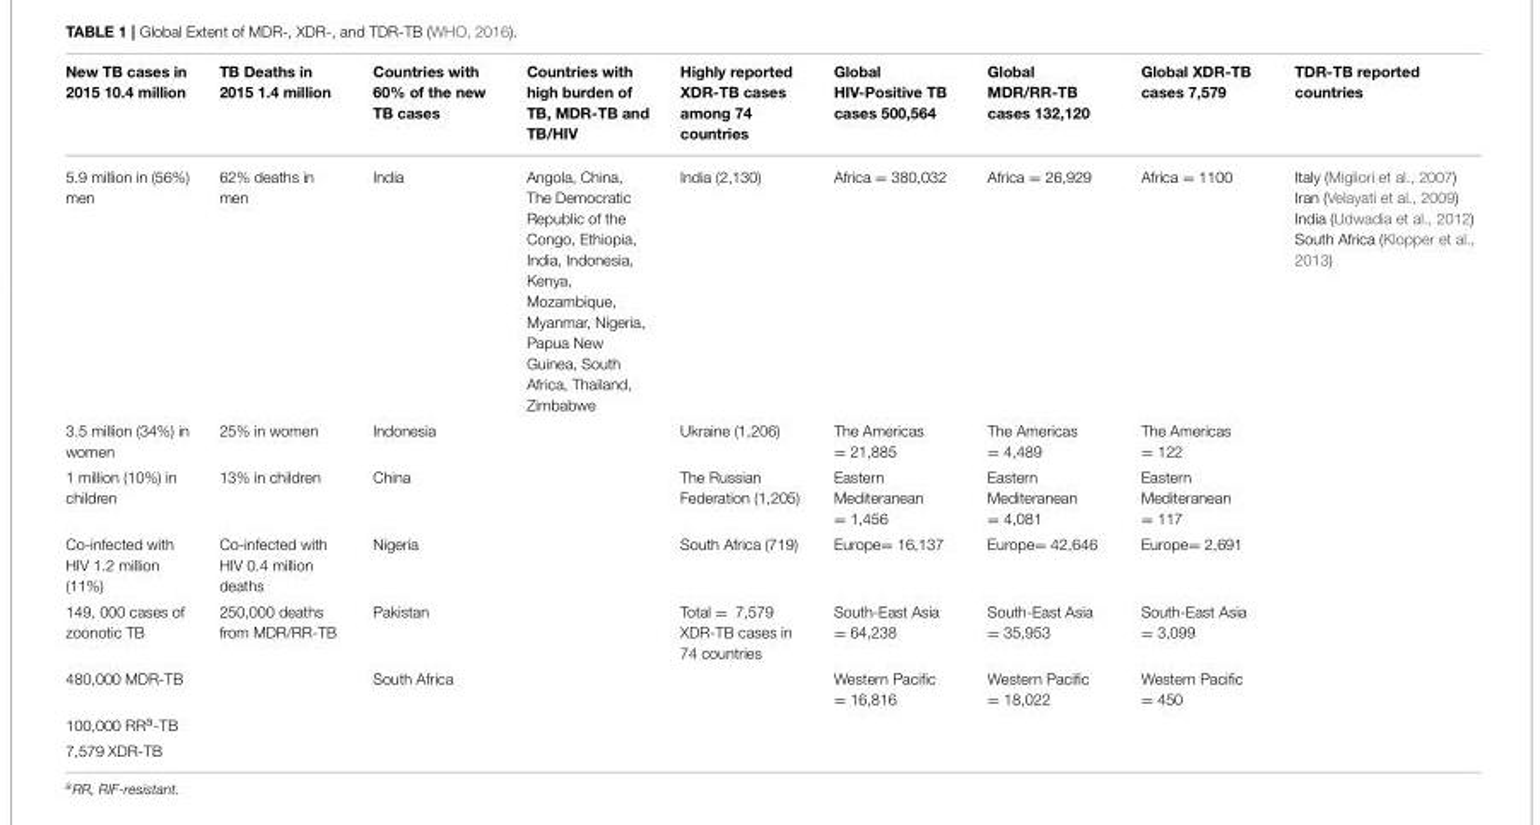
<table><thead><tr><td>New TB cases in 2015 10.4 million</td><td>TB Deaths in 2015 1.4 million</td><td>Countries with 60% of the new TB cases</td><td>Countries with high burden of TB, MDR-TB and TB/HIV</td><td>Highly reported XDR-TB cases among 74 countries</td><td>Global HIV-Positive TB cases 500,564</td><td>Global MDR/RR-TB cases 132,120</td><td>Global XDR-TB cases 7,579</td><td>TDR-TB reported countries</td></tr></thead><tbody><tr><td>5.9 million in (56%) men</td><td>62% deaths in men</td><td>India</td><td>Angola, China, The Democratic Republic of the Congo, Ethiopia, India, Indonesia, Kenya, Mozambique, Myanmar, Nigeria, Papua New Guinea, South Africa, Thailand, Zimbabwe</td><td>India (2,130)</td><td>Africa = 380,032</td><td>Africa = 26,929</td><td>Africa = 1100</td><td>Italy (Migliori et al., 2007) Iran (Velayati et al., 2009) India (Udwadia et al., 2012) South Africa (Klopper et al., 2013)</td></tr><tr><td>3.5 million (34%) in women</td><td>25% in women</td><td>Indonesia</td><td></td><td>Ukraine (1,206)</td><td>The Americas = 21,885</td><td>The Americas = 4,489</td><td>The Americas = 122</td><td></td></tr><tr><td>1 million (10%) in children</td><td>13% in children</td><td>China</td><td></td><td>The Russian Federation (1,205)</td><td>Eastern Mediteranean = 1,456</td><td>Eastern Mediteranean = 4,081</td><td>Eastern Mediteranean = 117</td><td></td></tr><tr><td>Co-infected with HIV 1.2 million (11%)</td><td>Co-infected with HIV 0.4 million deaths</td><td>Nigeria</td><td></td><td>South Africa (719)</td><td>Europe= 16,137</td><td>Europe= 42,646</td><td>Europe= 2,691</td><td></td></tr><tr><td>149, 000 cases of zoonotic TB</td><td>250,000 deaths from MDR/RR-TB</td><td>Pakistan</td><td></td><td>Total = 7,579 XDR-TB cases in 74 countries</td><td>South-East Asia = 64,238</td><td>South-East Asia = 35,953</td><td>South-East Asia = 3,099</td><td></td></tr><tr><td>480,000 MDR-TB</td><td></td><td>South Africa</td><td></td><td></td><td>Western Pacific = 16,816</td><td>Western Pacific = 18,022</td><td>Western Pacific = 450</td><td></td></tr><tr><td colspan="9">100,000 RR<sup>a</sup>-TB</td></tr><tr><td>7,579 XDR-TB</td><td></td><td></td><td></td><td></td><td></td><td></td><td></td><td></td></tr></tbody></table>